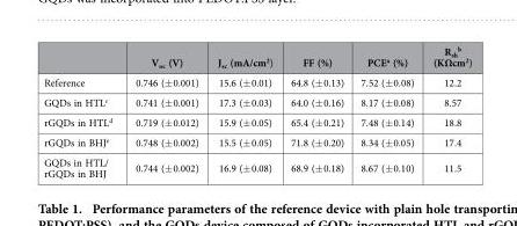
<table><thead><tr><td></td><td>V<sub>oc</sub> (V)</td><td>J<sub>sc</sub> (mA/cm<sup>2</sup>)</td><td>FF (%)</td><td>PCE<sup>a</sup> (%)</td><td>R<sub>sh</sub> <sup>b</sup> (KΩcm<sup>2</sup>)</td></tr></thead><tbody><tr><td>Reference</td><td>0.746 (± 0.001)</td><td>15.6 (± 0.01)</td><td>64.8 (± 0.13)</td><td>7.52 (± 0.08)</td><td>12.2</td></tr><tr><td>GQDs in HTL<sup>c</sup></td><td>0.741 (± 0.001)</td><td>17.3 (± 0.03)</td><td>64.0 (± 0.16)</td><td>8.17 (± 0.08)</td><td>8.57</td></tr><tr><td>rGQDs in HTL<sup>d</sup></td><td>0.719 (± 0.012)</td><td>15.9 (± 0.05)</td><td>65.4 (± 0.21)</td><td>7.48 (± 0.14)</td><td>18.8</td></tr><tr><td>rGQDs in BHJ<sup>e</sup></td><td>0.748 (± 0.002)</td><td>15.5 (± 0.05)</td><td>71.8 (± 0.20)</td><td>8.34 (± 0.05)</td><td>17.4</td></tr><tr><td>GQDs in HTL/ rGQDs in BHJ</td><td>0.744 (± 0.002)</td><td>16.9 (± 0.08)</td><td>68.9 (± 0.18)</td><td>8.67 (± 0.10)</td><td>11.5</td></tr></tbody></table>